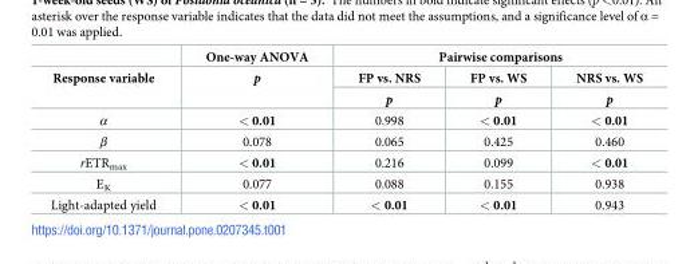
<table><thead><tr><td rowspan="3">Response variable</td><td rowspan="3">One-way ANOVA p</td><td colspan="3">Pairwise comparisons</td></tr><tr><td rowspan="2">FP vs. NRS p</td><td rowspan="2">FP vs. WS p</td><td rowspan="2">NRS vs. WS p</td></tr><tr></tr></thead><tbody><tr><td>α</td><td>&lt; 0.01</td><td>0.998</td><td>&lt; 0.01</td><td>&lt; 0.01</td></tr><tr><td>β</td><td>0.078</td><td>0.065</td><td>0.425</td><td>0.460</td></tr><tr><td>rETR<sub>max</sub></td><td>&lt; 0.01</td><td>0.216</td><td>0.099</td><td>&lt; 0.01</td></tr><tr><td>E<sub>K</sub></td><td>0.077</td><td>0.088</td><td>0.155</td><td>0.938</td></tr><tr><td>Light-adapted yield</td><td>&lt; 0.01</td><td>&lt; 0.01</td><td>&lt; 0.01</td><td>0.943</td></tr></tbody></table>